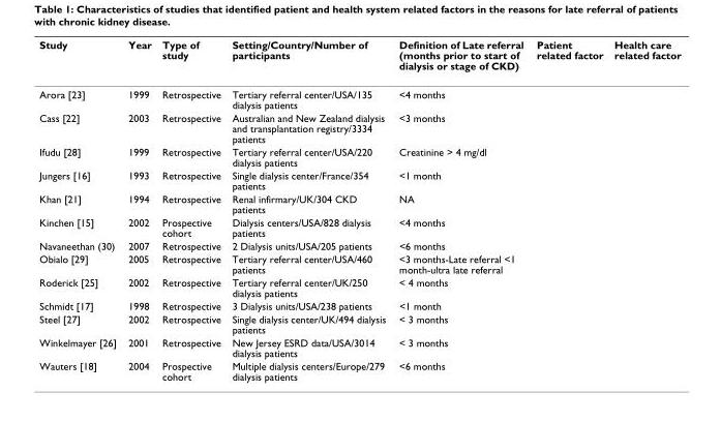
<table><thead><tr><td>Study</td><td>Year</td><td>Type of study</td><td>Setting/Country/Number of participants</td><td>Definition of Late referral (months prior to start of dialysis or stage of CKD)</td><td>Patient related factor</td><td>Health care related factor</td></tr></thead><tbody><tr><td>Arora [23]</td><td>1999</td><td>Retrospective</td><td>Tertiary referral center/USA/135 dialysis patients</td><td>&lt;4 months</td><td></td><td></td></tr><tr><td>Cass [22]</td><td>2003</td><td>Retrospective</td><td>Australian and New Zealand dialysis and transplantation registry/3334 patients</td><td>&lt;3 months</td><td></td><td></td></tr><tr><td>Ifudu [28]</td><td>1999</td><td>Retrospective</td><td>Tertiary referral center/USA/220 dialysis patients</td><td>Creatinine &gt; 4 mg/dl</td><td></td><td></td></tr><tr><td>Jungers [16]</td><td>1993</td><td>Retrospective</td><td>Single dialysis center/France/354 patients</td><td>&lt;1 month</td><td></td><td></td></tr><tr><td>Khan [21]</td><td>1994</td><td>Retrospective</td><td>Renal infirmary/UK/304 CKD patients</td><td>NA</td><td></td><td></td></tr><tr><td>Kinchen [15]</td><td>2002</td><td>Prospective cohort</td><td>Dialysis centers/USA/828 dialysis patients</td><td>&lt;4 months</td><td></td><td></td></tr><tr><td>Navaneethan (30)</td><td>2007</td><td>Retrospective</td><td>2 Dialysis units/USA/205 patients</td><td>&lt;6 months</td><td></td><td></td></tr><tr><td>Obialo [29]</td><td>2005</td><td>Retrospective</td><td>Tertiary referral center/USA/460 patients</td><td>&lt;3 months-Late referral &lt;1 month-ultra late referral</td><td></td><td></td></tr><tr><td>Roderick [25]</td><td>2002</td><td>Retrospective</td><td>Tertiary referral center/UK/250 dialysis patients</td><td>&lt; 4 months</td><td></td><td></td></tr><tr><td>Schmidt [17]</td><td>1998</td><td>Retrospective</td><td>3 Dialysis units/USA/238 patients</td><td>&lt;1 month</td><td></td><td></td></tr><tr><td>Steel [27]</td><td>2002</td><td>Retrospective</td><td>Single dialysis center/UK/494 dialysis patients</td><td>&lt; 3 months</td><td></td><td></td></tr><tr><td>Winkelmayer [26]</td><td>2001</td><td>Retrospective</td><td>New Jersey ESRD data/USA/3014 dialysis patients</td><td>&lt; 3 months</td><td></td><td></td></tr><tr><td>Wauters [18]</td><td>2004</td><td>Prospective cohort</td><td>Multiple dialysis centers/Europe/279 dialysis patients</td><td>&lt;6 months</td><td></td><td></td></tr></tbody></table>